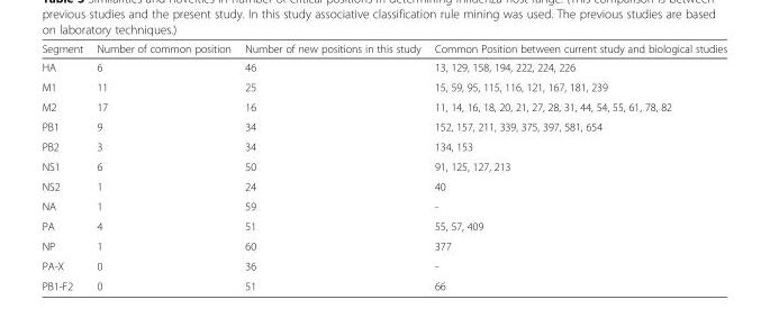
<table><thead><tr><td>Segment</td><td>Number of common position</td><td>Number of new positions in this study</td><td>Common Position between current study and biological studies</td></tr></thead><tbody><tr><td>HA</td><td>6</td><td>46</td><td>13, 129, 158, 194, 222, 224, 226</td></tr><tr><td>M1</td><td>11</td><td>25</td><td>15, 59, 95, 115, 116, 121, 167, 181, 239</td></tr><tr><td>M2</td><td>17</td><td>16</td><td>11, 14, 16, 18, 20, 21, 27, 28, 31, 44, 54, 55, 61, 78, 82</td></tr><tr><td>PB1</td><td>9</td><td>34</td><td>152, 157, 211, 339, 375, 397, 581, 654</td></tr><tr><td>PB2</td><td>3</td><td>34</td><td>134, 153</td></tr><tr><td>NS1</td><td>6</td><td>50</td><td>91, 125, 127, 213</td></tr><tr><td>NS2</td><td>1</td><td>24</td><td>40</td></tr><tr><td>NA</td><td>1</td><td>59</td><td>-</td></tr><tr><td>PA</td><td>4</td><td>51</td><td>55, 57, 409</td></tr><tr><td>NP</td><td>1</td><td>60</td><td>377</td></tr><tr><td>PA-X</td><td>0</td><td>36</td><td>-</td></tr><tr><td>PB1-F2</td><td>0</td><td>51</td><td>66</td></tr></tbody></table>